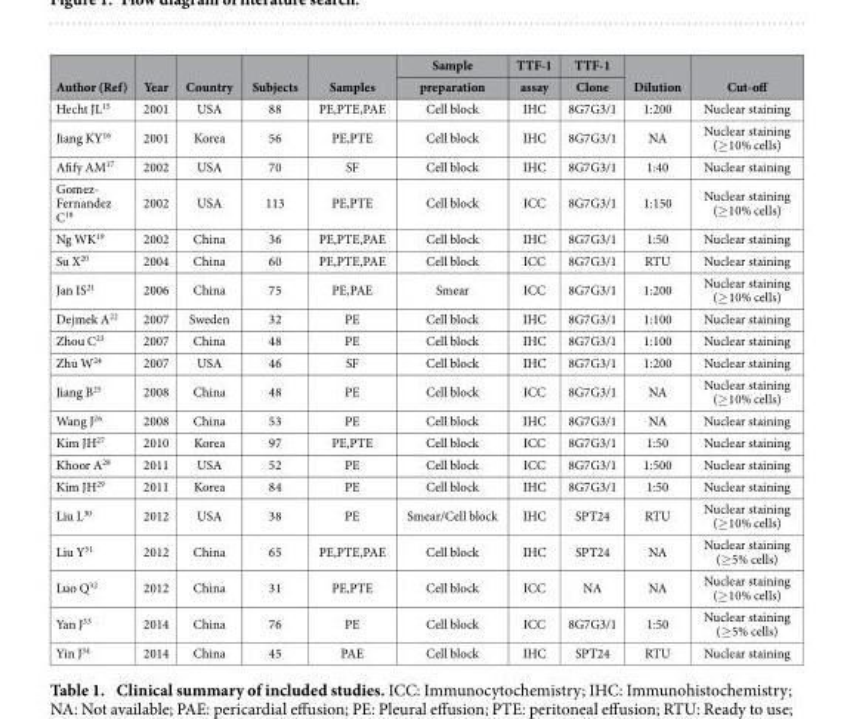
<table><thead><tr><td rowspan="2">Author (Ref)</td><td rowspan="2">Year</td><td rowspan="2">Country</td><td rowspan="2">Subjects</td><td rowspan="2">Samples</td><td rowspan="2">Sample preparation</td><td rowspan="2">TTF-1 assay</td><td rowspan="2">TTF-1 Clone</td><td rowspan="2">Dilution</td><td rowspan="2">Cut-off</td></tr><tr></tr></thead><tbody><tr><td>Hecht JL<sup>15</sup></td><td>2001</td><td>USA</td><td>88</td><td>PE,PTE,PAE</td><td>Cell block</td><td>IHC</td><td>8G7G3/1</td><td>1:200</td><td>Nuclear staining</td></tr><tr><td>Jiang KY<sup>16</sup></td><td>2001</td><td>Korea</td><td>56</td><td>PE,PTE</td><td>Cell block</td><td>IHC</td><td>8G7G3/1</td><td>NA</td><td>Nuclear staining (≥ 10% cells)</td></tr><tr><td>Afify AM<sup>17</sup></td><td>2002</td><td>USA</td><td>70</td><td>SF</td><td>Cell block</td><td>IHC</td><td>8G7G3/1</td><td>1:40</td><td>Nuclear staining</td></tr><tr><td>Gomez- Fernandez C<sup>18</sup></td><td>2002</td><td>USA</td><td>113</td><td>PE,PTE</td><td>Cell block</td><td>ICC</td><td>8G7G3/1</td><td>1:150</td><td>Nuclear staining (≥ 10% cells)</td></tr><tr><td>Ng WK<sup>19</sup></td><td>2002</td><td>China</td><td>36</td><td>PE,PTE,PAE</td><td>Cell block</td><td>IHC</td><td>8G7G3/1</td><td>1:50</td><td>Nuclear staining</td></tr><tr><td>Su X<sup>20</sup></td><td>2004</td><td>China</td><td>60</td><td>PE,PTE,PAE</td><td>Cell block</td><td>ICC</td><td>8G7G3/1</td><td>RTU</td><td>Nuclear staining</td></tr><tr><td>Jan IS<sup>21</sup></td><td>2006</td><td>China</td><td>75</td><td>PE,PAE</td><td>Smear</td><td>ICC</td><td>8G7G3/1</td><td>1:200</td><td>Nuclear staining (≥ 10% cells)</td></tr><tr><td>Dejmek A<sup>22</sup></td><td>2007</td><td>Sweden</td><td>32</td><td>PE</td><td>Cell block</td><td>IHC</td><td>8G7G3/1</td><td>1:100</td><td>Nuclear staining</td></tr><tr><td>Zhou C<sup>23</sup></td><td>2007</td><td>China</td><td>48</td><td>PE</td><td>Cell block</td><td>IHC</td><td>8G7G3/1</td><td>1:100</td><td>Nuclear staining</td></tr><tr><td>Zhu W<sup>24</sup></td><td>2007</td><td>USA</td><td>46</td><td>SF</td><td>Cell block</td><td>IHC</td><td>8G7G3/1</td><td>1:200</td><td>Nuclear staining</td></tr><tr><td>Jiang B<sup>25</sup></td><td>2008</td><td>China</td><td>48</td><td>PE</td><td>Cell block</td><td>ICC</td><td>8G7G3/1</td><td>NA</td><td>Nuclear staining (≥ 10% cells)</td></tr><tr><td>Wang J<sup>26</sup></td><td>2008</td><td>China</td><td>53</td><td>PE</td><td>Cell block</td><td>IHC</td><td>8G7G3/1</td><td>NA</td><td>Nuclear staining</td></tr><tr><td>Kim JH<sup>27</sup></td><td>2010</td><td>Korea</td><td>97</td><td>PE,PTE</td><td>Cell block</td><td>ICC</td><td>8G7G3/1</td><td>1:50</td><td>Nuclear staining</td></tr><tr><td>Khoor A<sup>28</sup></td><td>2011</td><td>USA</td><td>52</td><td>PE</td><td>Cell block</td><td>ICC</td><td>8G7G3/1</td><td>1:500</td><td>Nuclear staining</td></tr><tr><td>Kim JH<sup>29</sup></td><td>2011</td><td>Korea</td><td>84</td><td>PE</td><td>Cell block</td><td>IHC</td><td>8G7G3/1</td><td>1:50</td><td>Nuclear staining</td></tr><tr><td>Liu L<sup>30</sup></td><td>2012</td><td>USA</td><td>38</td><td>PE</td><td>Smear/Cell block</td><td>IHC</td><td>SPT24</td><td>RTU</td><td>Nuclear staining (≥ 10% cells)</td></tr><tr><td>Liu Y<sup>31</sup></td><td>2012</td><td>China</td><td>65</td><td>PE,PTE,PAE</td><td>Cell block</td><td>IHC</td><td>SPT24</td><td>NA</td><td>Nuclear staining (≥ 5% cells)</td></tr><tr><td>Luo Q<sup>32</sup></td><td>2012</td><td>China</td><td>31</td><td>PE,PTE</td><td>Cell block</td><td>ICC</td><td>NA</td><td>NA</td><td>Nuclear staining (≥ 10% cells)</td></tr><tr><td>Yan J<sup>33</sup></td><td>2014</td><td>China</td><td>76</td><td>PE</td><td>Cell block</td><td>ICC</td><td>8G7G3/1</td><td>1:50</td><td>Nuclear staining (≥ 5% cells)</td></tr><tr><td>Yin J<sup>34</sup></td><td>2014</td><td>China</td><td>45</td><td>PAE</td><td>Cell block</td><td>IHC</td><td>SPT24</td><td>RTU</td><td>Nuclear staining</td></tr></tbody></table>